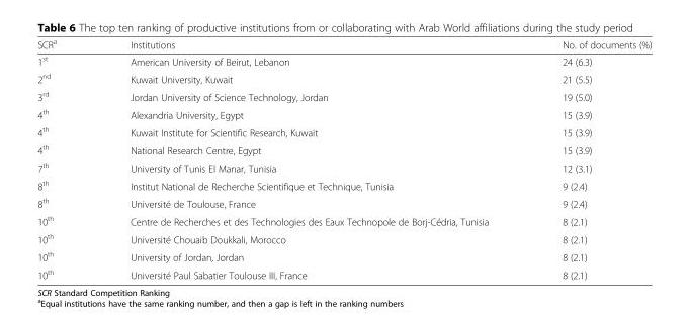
<table><thead><tr><td>SCR<sup>a</sup></td><td>Institutions</td><td>No. of documents (%)</td></tr></thead><tbody><tr><td>1<sup>st</sup></td><td>American University of Beirut, Lebanon</td><td>24 (6.3)</td></tr><tr><td>2<sup>nd</sup></td><td>Kuwait University, Kuwait</td><td>21 (5.5)</td></tr><tr><td>3<sup>rd</sup></td><td>Jordan University of Science Technology, Jordan</td><td>19 (5.0)</td></tr><tr><td>4<sup>th</sup></td><td>Alexandria University, Egypt</td><td>15 (3.9)</td></tr><tr><td>4<sup>th</sup></td><td>Kuwait Institute for Scientific Research, Kuwait</td><td>15 (3.9)</td></tr><tr><td>4<sup>th</sup></td><td>National Research Centre, Egypt</td><td>15 (3.9)</td></tr><tr><td>7<sup>th</sup></td><td>University of Tunis El Manar, Tunisia</td><td>12 (3.1)</td></tr><tr><td>8<sup>th</sup></td><td>Institut National de Recherche Scientifique et Technique, Tunisia</td><td>9 (2.4)</td></tr><tr><td>8<sup>th</sup></td><td>Université de Toulouse, France</td><td>9 (2.4)</td></tr><tr><td>10<sup>th</sup></td><td>Centre de Recherches et des Technologies des Eaux Technopole de Borj-Cédria, Tunisia</td><td>8 (2.1)</td></tr><tr><td>10<sup>th</sup></td><td>Université Chouaib Doukkali, Morocco</td><td>8 (2.1)</td></tr><tr><td>10<sup>th</sup></td><td>University of Jordan, Jordan</td><td>8 (2.1)</td></tr><tr><td>10<sup>th</sup></td><td>Université Paul Sabatier Toulouse III, France</td><td>8 (2.1)</td></tr></tbody></table>